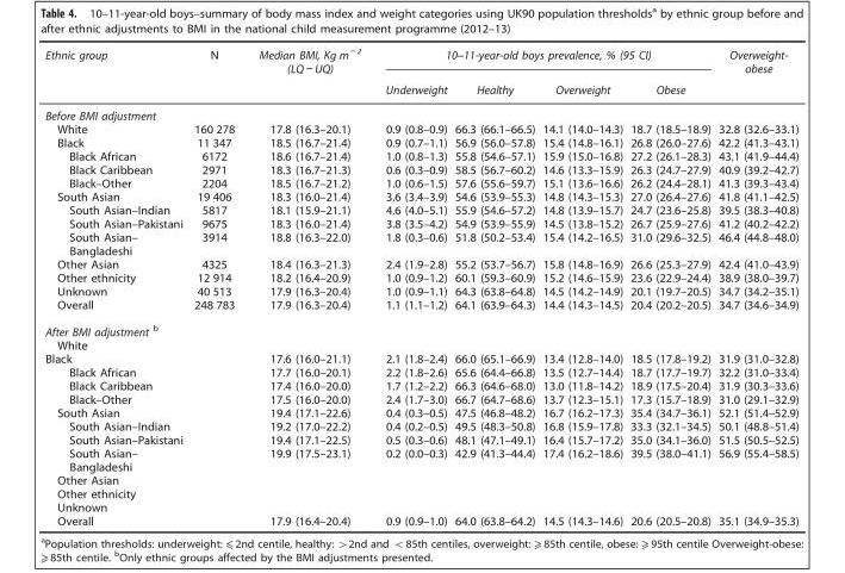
<table><thead><tr><td rowspan="2">Ethnic group</td><td rowspan="2">N</td><td rowspan="2">Median BMI, Kg m <sup>− 2</sup> (LQ − UQ)</td><td colspan="4">10–11-year-old boys prevalence, % (95 CI)</td><td rowspan="2">Overweight- obese</td></tr><tr><td>Underweight</td><td>Healthy</td><td>Overweight</td><td>Obese</td></tr></thead><tbody><tr><td colspan="8">Before BMI adjustment</td></tr><tr><td>White</td><td>160 278</td><td>17.8 (16.3–20.1)</td><td>0.9 (0.8–0.9)</td><td>66.3 (66.1–66.5)</td><td>14.1 (14.0–14.3)</td><td>18.7 (18.5–18.9)</td><td>32.8 (32.6–33.1)</td></tr><tr><td>Black</td><td>11 347</td><td>18.5 (16.7–21.4)</td><td>0.9 (0.7–1.1)</td><td>56.9 (56.0–57.8)</td><td>15.4 (14.8–16.1)</td><td>26.8 (26.0–27.6)</td><td>42.2 (41.3–43.1)</td></tr><tr><td>Black African</td><td>6172</td><td>18.6 (16.7–21.4)</td><td>1.0 (0.8–1.3)</td><td>55.8 (54.6–57.1)</td><td>15.9 (15.0–16.8)</td><td>27.2 (26.1–28.3)</td><td>43.1 (41.9–44.4)</td></tr><tr><td>Black Caribbean</td><td>2971</td><td>18.3 (16.7–21.3)</td><td>0.6 (0.3–0.9)</td><td>58.5 (56.7–60.2)</td><td>14.6 (13.3–15.9)</td><td>26.3 (24.7–27.9)</td><td>40.9 (39.2–42.7)</td></tr><tr><td>Black–Other</td><td>2204</td><td>18.5 (16.7–21.2)</td><td>1.0 (0.6–1.5)</td><td>57.6 (55.6–59.7)</td><td>15.1 (13.6–16.6)</td><td>26.2 (24.4–28.1)</td><td>41.3 (39.3–43.4)</td></tr><tr><td>South Asian</td><td>19 406</td><td>18.3 (16.0–21.4)</td><td>3.6 (3.4–3.9)</td><td>54.6 (53.9–55.3)</td><td>14.8 (14.3–15.3)</td><td>27.0 (26.4–27.6)</td><td>41.8 (41.1–42.5)</td></tr><tr><td>South Asian–Indian</td><td>5817</td><td>18.1 (15.9–21.1)</td><td>4.6 (4.0–5.1)</td><td>55.9 (54.6–57.2)</td><td>14.8 (13.9–15.7)</td><td>24.7 (23.6–25.8)</td><td>39.5 (38.3–40.8)</td></tr><tr><td>South Asian–Pakistani</td><td>9675</td><td>18.3 (16.0–21.4)</td><td>3.8 (3.5–4.2)</td><td>54.9 (53.9–55.9)</td><td>14.5 (13.8–15.2)</td><td>26.7 (25.9–27.6)</td><td>41.2 (40.2–42.2)</td></tr><tr><td>South Asian– Bangladeshi</td><td>3914</td><td>18.8 (16.3–22.0)</td><td>1.8 (0.3–0.6)</td><td>51.8 (50.2–53.4)</td><td>15.4 (14.2–16.5)</td><td>31.0 (29.6–32.5)</td><td>46.4 (44.8–48.0)</td></tr><tr><td>Other Asian</td><td>4325</td><td>18.4 (16.3–21.3)</td><td>2.4 (1.9–2.8)</td><td>55.2 (53.7–56.7)</td><td>15.8 (14.8–16.9)</td><td>26.6 (25.3–27.9)</td><td>42.4 (41.0–43.9)</td></tr><tr><td>Other ethnicity</td><td>12 914</td><td>18.2 (16.4–20.9)</td><td>1.0 (0.9–1.2)</td><td>60.1 (59.3–60.9)</td><td>15.2 (14.6–15.9)</td><td>23.6 (22.9–24.4)</td><td>38.9 (38.0–39.7)</td></tr><tr><td>Unknown</td><td>40 513</td><td>17.9 (16.3–20.4)</td><td>1.0 (0.9–1.1)</td><td>64.3 (63.8–64.8)</td><td>14.5 (14.2–14.9)</td><td>20.1 (19.7–20.5)</td><td>34.7 (34.2–35.1)</td></tr><tr><td>Overall</td><td>248 783</td><td>17.9 (16.3–20.4)</td><td>1.1 (1.1–1.2)</td><td>64.1 (63.9–64.3)</td><td>14.4 (14.3–14.5)</td><td>20.4 (20.2–20.5)</td><td>34.7 (34.6–34.9)</td></tr><tr><td colspan="8">After BMI adjustment b</td></tr><tr><td colspan="8">White</td></tr><tr><td>Black</td><td></td><td>17.6 (16.0–21.1)</td><td>2.1 (1.8–2.4)</td><td>66.0 (65.1–66.9)</td><td>13.4 (12.8–14.0)</td><td>18.5 (17.8–19.2)</td><td>31.9 (31.0–32.8)</td></tr><tr><td>Black African</td><td></td><td>17.7 (16.0–20.1)</td><td>2.2 (1.8–2.6)</td><td>65.6 (64.4–66.8)</td><td>13.5 (12.7–14.4)</td><td>18.7 (17.7–19.7)</td><td>32.2 (31.0–33.4)</td></tr><tr><td>Black Caribbean</td><td></td><td>17.4 (16.0–20.0)</td><td>1.7 (1.2–2.2)</td><td>66.3 (64.6–68.0)</td><td>13.0 (11.8–14.2)</td><td>18.9 (17.5–20.4)</td><td>31.9 (30.3–33.6)</td></tr><tr><td>Black–Other</td><td></td><td>17.5 (16.0–20.0)</td><td>2.4 (1.7–3.0)</td><td>66.7 (64.7–68.6)</td><td>13.7 (12.3–15.1)</td><td>17.3 (15.7–18.9)</td><td>31.0 (29.1–32.9)</td></tr><tr><td>South Asian</td><td></td><td>19.4 (17.1–22.6)</td><td>0.4 (0.3–0.5)</td><td>47.5 (46.8–48.2)</td><td>16.7 (16.2–17.3)</td><td>35.4 (34.7–36.1)</td><td>52.1 (51.4–52.9)</td></tr><tr><td>South Asian–Indian</td><td></td><td>19.2 (17.0–22.2)</td><td>0.4 (0.2–0.5)</td><td>49.5 (48.3–50.8)</td><td>16.8 (15.9–17.8)</td><td>33.3 (32.1–34.5)</td><td>50.1 (48.8–51.4)</td></tr><tr><td>South Asian–Pakistani</td><td></td><td>19.4 (17.1–22.5)</td><td>0.5 (0.3–0.6)</td><td>48.1 (47.1–49.1)</td><td>16.4 (15.7–17.2)</td><td>35.0 (34.1–36.0)</td><td>51.5 (50.5–52.5)</td></tr><tr><td>South Asian– Bangladeshi</td><td></td><td>19.9 (17.5–23.1)</td><td>0.2 (0.0–0.3)</td><td>42.9 (41.3–44.4)</td><td>17.4 (16.2–18.6)</td><td>39.5 (38.0–41.1)</td><td>56.9 (55.4–58.5)</td></tr><tr><td colspan="8">Other Asian</td></tr><tr><td colspan="8">Other ethnicity</td></tr><tr><td colspan="8">Unknown</td></tr><tr><td>Overall</td><td></td><td>17.9 (16.4–20.4)</td><td>0.9 (0.9–1.0)</td><td>64.0 (63.8–64.2)</td><td>14.5 (14.3–14.6)</td><td>20.6 (20.5–20.8)</td><td>35.1 (34.9–35.3)</td></tr></tbody></table>